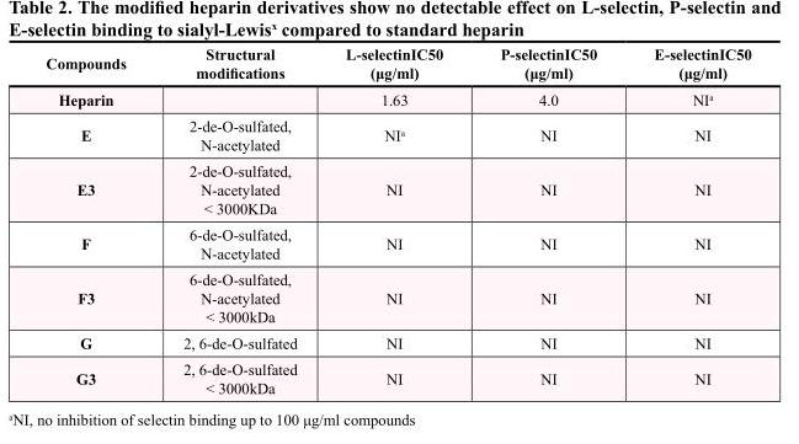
<table><thead><tr><td>Compounds</td><td>Structural modifications</td><td>L-selectinIC50 (μg/ml)</td><td>P-selectinIC50 (μg/ml)</td><td>E-selectinIC50 (μg/ml)</td></tr></thead><tbody><tr><td>Heparin</td><td></td><td>1.63</td><td>4.0</td><td>NI<sup>a</sup></td></tr><tr><td>E</td><td>2-de-O-sulfated, N-acetylated</td><td>NI<sup>a</sup></td><td>NI</td><td>NI</td></tr><tr><td>E3</td><td>2-de-O-sulfated, N-acetylated &lt; 3000KDa</td><td>NI</td><td>NI</td><td>NI</td></tr><tr><td>F</td><td>6-de-O-sulfated, N-acetylated</td><td>NI</td><td>NI</td><td>NI</td></tr><tr><td>F3</td><td>6-de-O-sulfated, N-acetylated &lt; 3000kDa</td><td>NI</td><td>NI</td><td>NI</td></tr><tr><td>G</td><td>2, 6-de-O-sulfated</td><td>NI</td><td>NI</td><td>NI</td></tr><tr><td>G3</td><td>2, 6-de-O-sulfated &lt; 3000kDa</td><td>NI</td><td>NI</td><td>NI</td></tr></tbody></table>